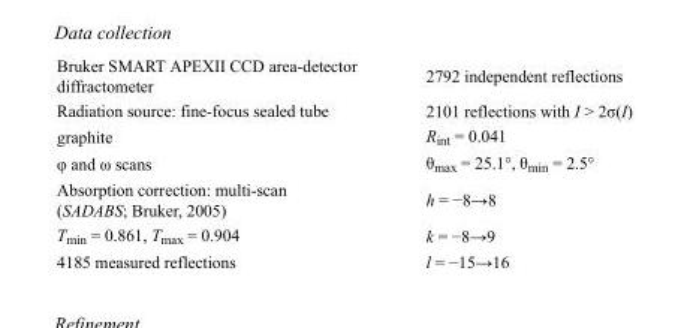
<table><tbody><tr><td>Bruker SMART APEXII CCD area-detector diffractometer</td><td>2792 independent reflections</td></tr><tr><td>Radiation source: fine-focus sealed tube</td><td>2101 reflections with I &gt; 2σ(I)</td></tr><tr><td>graphite</td><td>R<sub>int</sub> = 0.041</td></tr><tr><td>φ and ω scans</td><td>θ<sub>max</sub> = 25.1°, θ<sub>min</sub> = 2.5°</td></tr><tr><td>Absorption correction: multi-scan (SADABS; Bruker, 2005)</td><td>h = −8→8</td></tr><tr><td>T<sub>min</sub> = 0.861, T<sub>max</sub> = 0.904</td><td>k = −8→9</td></tr><tr><td>4185 measured reflections</td><td>l = −15→16</td></tr></tbody></table>